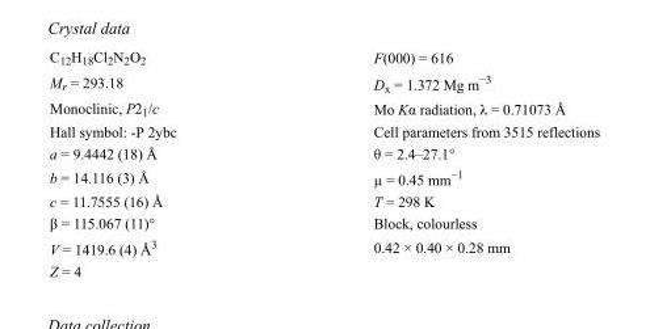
<table><tbody><tr><td>C<sub>12</sub>H<sub>18</sub>Cl<sub>2</sub>N<sub>2</sub>O<sub>2</sub></td><td>F(000) = 616</td></tr><tr><td>M<sub>r</sub> = 293.18</td><td>D<sub>x</sub> = 1.372 Mg m<sup>−3</sup></td></tr><tr><td>Monoclinic, P2<sub>1</sub>/c</td><td>Mo Kα radiation, λ = 0.71073 Å</td></tr><tr><td>Hall symbol: -P 2ybc</td><td>Cell parameters from 3515 reflections</td></tr><tr><td>a = 9.4442 (18) Å</td><td>θ = 2.4–27.1°</td></tr><tr><td>b = 14.116 (3) Å</td><td>µ = 0.45 mm<sup>−1</sup></td></tr><tr><td>c = 11.7555 (16) Å</td><td>T = 298 K</td></tr><tr><td>β = 115.067 (11)°</td><td>Block, colourless</td></tr><tr><td>V = 1419.6 (4) Å<sup>3</sup></td><td>0.42 × 0.40 × 0.28 mm</td></tr><tr><td>Z = 4</td><td></td></tr></tbody></table>